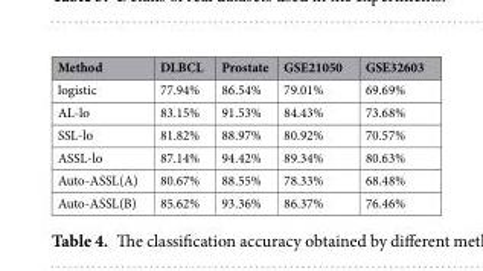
<table><thead><tr><td>Method</td><td>DLBCL</td><td>Prostate</td><td>GSE21050</td><td>GSE32603</td></tr></thead><tbody><tr><td>logistic</td><td>77.94%</td><td>86.54%</td><td>79.01%</td><td>69.69%</td></tr><tr><td>AL-lo</td><td>83.15%</td><td>91.53%</td><td>84.43%</td><td>73.68%</td></tr><tr><td>SSL-lo</td><td>81.82%</td><td>88.97%</td><td>80.92%</td><td>70.57%</td></tr><tr><td>ASSL-lo</td><td>87.14%</td><td>94.42%</td><td>89.34%</td><td>80.63%</td></tr><tr><td>Auto-ASSL(A)</td><td>80.67%</td><td>88.55%</td><td>78.33%</td><td>68.48%</td></tr><tr><td>Auto-ASSL(B)</td><td>85.62%</td><td>93.36%</td><td>86.37%</td><td>76.46%</td></tr></tbody></table>